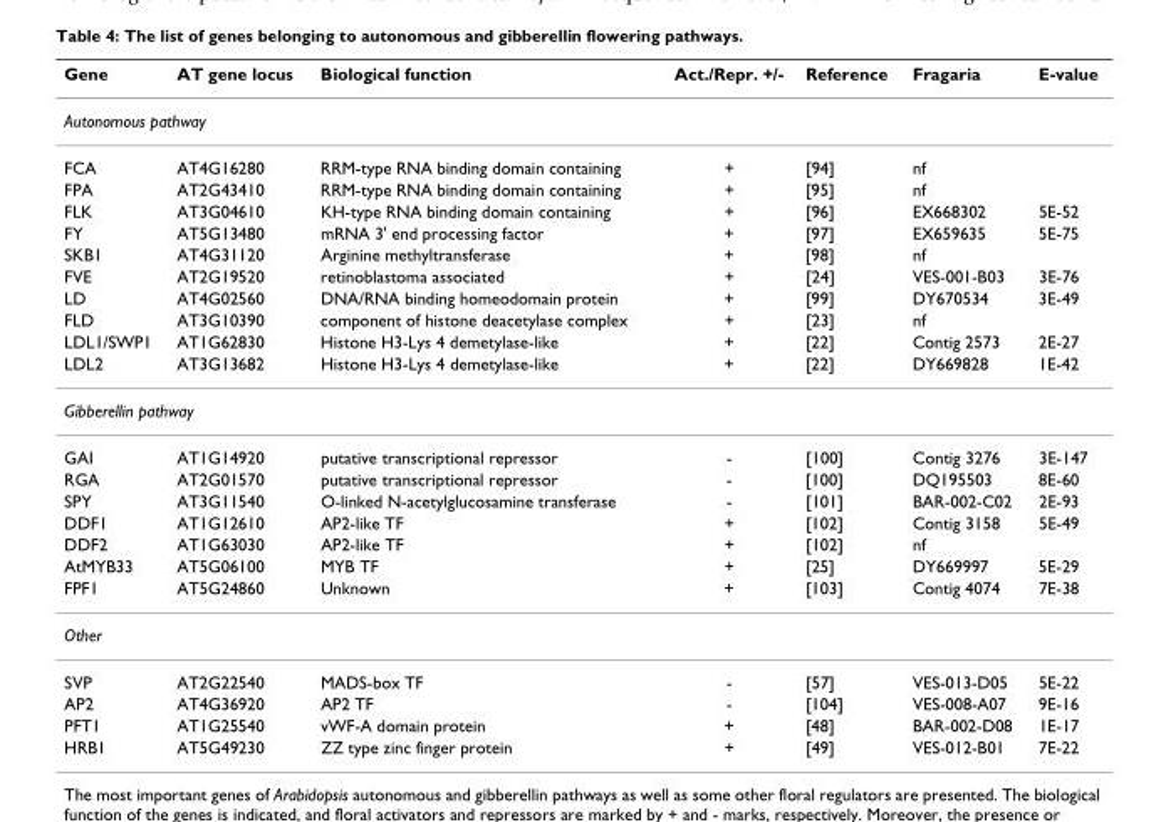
<table><thead><tr><td>Gene</td><td>AT gene locus</td><td>Biological function</td><td>Act./Repr. +/-</td><td>Reference</td><td>Fragaria</td><td>E-value</td></tr></thead><tbody><tr><td colspan="7">Autonomous pathway</td></tr><tr><td>FCA</td><td>AT4G16280</td><td>RRM-type RNA binding domain containing</td><td>+</td><td>[94]</td><td>nf</td><td></td></tr><tr><td>FPA</td><td>AT2G43410</td><td>RRM-type RNA binding domain containing</td><td>+</td><td>[95]</td><td>nf</td><td></td></tr><tr><td>FLK</td><td>AT3G04610</td><td>KH-type RNA binding domain containing</td><td>+</td><td>[96]</td><td>EX668302</td><td>5E-52</td></tr><tr><td>FY</td><td>AT5G13480</td><td>mRNA 3&#x27; end processing factor</td><td>+</td><td>[97]</td><td>EX659635</td><td>5E-75</td></tr><tr><td>SKB1</td><td>AT4G31120</td><td>Arginine methyltransferase</td><td>+</td><td>[98]</td><td>nf</td><td></td></tr><tr><td>FVE</td><td>AT2G19520</td><td>retinoblastoma associated</td><td>+</td><td>[24]</td><td>VES-001-B03</td><td>3E-76</td></tr><tr><td>LD</td><td>AT4G02560</td><td>DNA/RNA binding homeodomain protein</td><td>+</td><td>[99]</td><td>DY670534</td><td>3E-49</td></tr><tr><td>FLD</td><td>AT3G10390</td><td>component of histone deacetylase complex</td><td>+</td><td>[23]</td><td>nf</td><td></td></tr><tr><td>LDL1/SWP1</td><td>AT1G62830</td><td>Histone H3-Lys 4 demetylase-like</td><td>+</td><td>[22]</td><td>Contig 2573</td><td>2E-27</td></tr><tr><td>LDL2</td><td>AT3G13682</td><td>Histone H3-Lys 4 demetylase-like</td><td>+</td><td>[22]</td><td>DY669828</td><td>1E-42</td></tr><tr><td colspan="7">Gibberellin pathway</td></tr><tr><td>GAI</td><td>AT1G14920</td><td>putative transcriptional repressor</td><td>-</td><td>[100]</td><td>Contig 3276</td><td>3E-147</td></tr><tr><td>RGA</td><td>AT2G01570</td><td>putative transcriptional repressor</td><td>-</td><td>[100]</td><td>DQ195503</td><td>8E-60</td></tr><tr><td>SPY</td><td>AT3G11540</td><td>O-linked N-acetylglucosamine transferase</td><td>-</td><td>[101]</td><td>BAR-002-C02</td><td>2E-93</td></tr><tr><td>DDF1</td><td>AT1G12610</td><td>AP2-like TF</td><td>+</td><td>[102]</td><td>Contig 3158</td><td>5E-49</td></tr><tr><td>DDF2</td><td>AT1G63030</td><td>AP2-like TF</td><td>+</td><td>[102]</td><td>nf</td><td></td></tr><tr><td>AtMYB33</td><td>AT5G06100</td><td>MYB TF</td><td>+</td><td>[25]</td><td>DY669997</td><td>5E-29</td></tr><tr><td>FPF1</td><td>AT5G24860</td><td>Unknown</td><td>+</td><td>[103]</td><td>Contig 4074</td><td>7E-38</td></tr><tr><td colspan="7">Other</td></tr><tr><td>SVP</td><td>AT2G22540</td><td>MADS-box TF</td><td>-</td><td>[57]</td><td>VES-013-D05</td><td>5E-22</td></tr><tr><td>AP2</td><td>AT4G36920</td><td>AP2 TF</td><td>-</td><td>[104]</td><td>VES-008-A07</td><td>9E-16</td></tr><tr><td>PFT1</td><td>AT1G25540</td><td>vWF-A domain protein</td><td>+</td><td>[48]</td><td>BAR-002-D08</td><td>1E-17</td></tr><tr><td>HRB1</td><td>AT5G49230</td><td>ZZ type zinc finger protein</td><td>+</td><td>[49]</td><td>VES-012-B01</td><td>7E-22</td></tr></tbody></table>